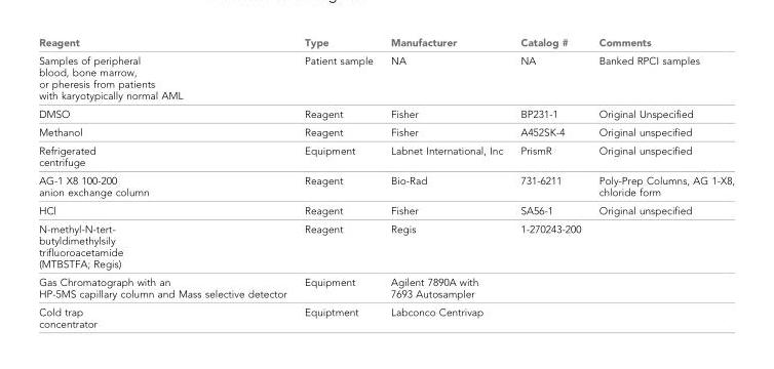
<table><thead><tr><td>Reagent</td><td>Type</td><td>Manufacturer</td><td>Catalog #</td><td>Comments</td></tr></thead><tbody><tr><td>Samples of peripheral blood, bone marrow, or pheresis from patients with karyotypically normal AML</td><td>Patient sample</td><td>NA</td><td>NA</td><td>Banked RPCI samples</td></tr><tr><td>DMSO</td><td>Reagent</td><td>Fisher</td><td>BP231-1</td><td>Original Unspecified</td></tr><tr><td>Methanol</td><td>Reagent</td><td>Fisher</td><td>A452SK-4</td><td>Original unspecified</td></tr><tr><td>Refrigerated centrifuge</td><td>Equipment</td><td>Labnet International, Inc</td><td>PrismR</td><td>Original unspecified</td></tr><tr><td>AG-1 X8 100-200 anion exchange column</td><td>Reagent</td><td>Bio-Rad</td><td>731-6211</td><td>Poly-Prep Columns, AG 1-X8, chloride form</td></tr><tr><td>HCl</td><td>Reagent</td><td>Fisher</td><td>SA56-1</td><td>Original unspecified</td></tr><tr><td>N-methyl-N-tert- butyldimethylsily trifluoroacetamide (MTBSTFA; Regis)</td><td>Reagent</td><td>Regis</td><td>1-270243-200</td><td></td></tr><tr><td>Gas Chromatograph with an HP-5MS capillary column and Mass selective detector</td><td>Equipment</td><td>Agilent 7890A with 7693 Autosampler</td><td></td><td></td></tr><tr><td>Cold trap concentrator</td><td>Equiptment</td><td>Labconco Centrivap</td><td></td><td></td></tr></tbody></table>